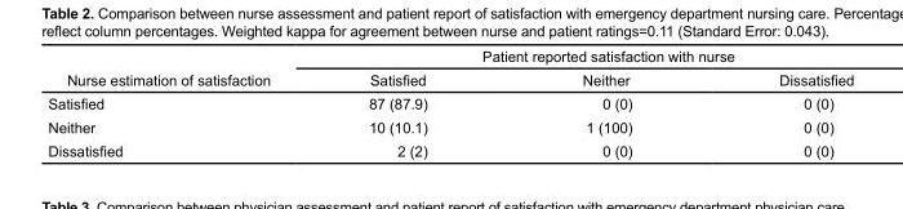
<table><thead><tr><td rowspan="2">Nurse estimation of satisfaction</td><td colspan="3">Patient reported satisfaction with nurse</td></tr><tr><td>Satisfied</td><td>Neither</td><td>Dissatisfied</td></tr></thead><tbody><tr><td>Satisfied</td><td>87 (87.9)</td><td>0 (0)</td><td>0 (0)</td></tr><tr><td>Neither</td><td>10 (10.1)</td><td>1 (100)</td><td>0 (0)</td></tr><tr><td>Dissatisfied</td><td>2 (2)</td><td>0 (0)</td><td>0 (0)</td></tr></tbody></table>